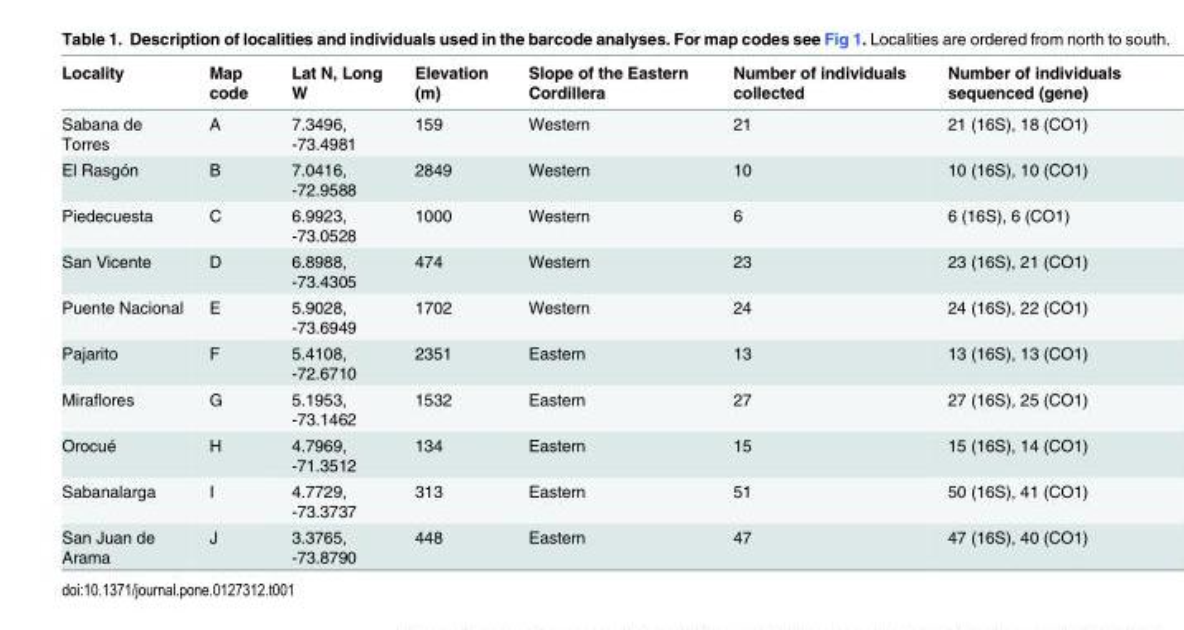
<table><thead><tr><td>Locality</td><td>Map code</td><td>Lat N, Long W</td><td>Elevation (m)</td><td>Slope of the Eastern Cordillera</td><td>Number of individuals collected</td><td>Number of individuals sequenced (gene)</td></tr></thead><tbody><tr><td>Sabana de Torres</td><td>A</td><td>7.3496, -73.4981</td><td>159</td><td>Western</td><td>21</td><td>21 (16S), 18 (CO1)</td></tr><tr><td>El Rasgón</td><td>B</td><td>7.0416, -72.9588</td><td>2849</td><td>Western</td><td>10</td><td>10 (16S), 10 (CO1)</td></tr><tr><td>Piedecuesta</td><td>C</td><td>6.9923, -73.0528</td><td>1000</td><td>Western</td><td>6</td><td>6 (16S), 6 (CO1)</td></tr><tr><td>San Vicente</td><td>D</td><td>6.8988, -73.4305</td><td>474</td><td>Western</td><td>23</td><td>23 (16S), 21 (CO1)</td></tr><tr><td>Puente Nacional</td><td>E</td><td>5.9028, -73.6949</td><td>1702</td><td>Western</td><td>24</td><td>24 (16S), 22 (CO1)</td></tr><tr><td>Pajarito</td><td>F</td><td>5.4108, -72.6710</td><td>2351</td><td>Eastern</td><td>13</td><td>13 (16S), 13 (CO1)</td></tr><tr><td>Miraflores</td><td>G</td><td>5.1953, -73.1462</td><td>1532</td><td>Eastern</td><td>27</td><td>27 (16S), 25 (CO1)</td></tr><tr><td>Orocué</td><td>H</td><td>4.7969, -71.3512</td><td>134</td><td>Eastern</td><td>15</td><td>15 (16S), 14 (CO1)</td></tr><tr><td>Sabanalarga</td><td>I</td><td>4.7729, -73.3737</td><td>313</td><td>Eastern</td><td>51</td><td>50 (16S), 41 (CO1)</td></tr><tr><td>San Juan de Arama</td><td>J</td><td>3.3765, -73.8790</td><td>448</td><td>Eastern</td><td>47</td><td>47 (16S), 40 (CO1)</td></tr></tbody></table>